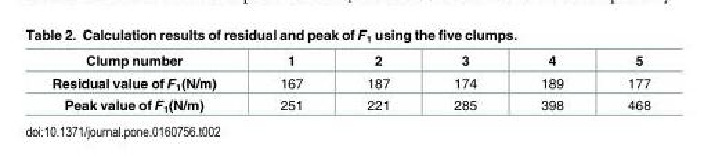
<table><thead><tr><td>Clump number</td><td>1</td><td>2</td><td>3</td><td>4</td><td>5</td></tr></thead><tbody><tr><td>Residual value of F<sub>1</sub>(N/m)</td><td>167</td><td>187</td><td>174</td><td>189</td><td>177</td></tr><tr><td>Peak value of F<sub>1</sub>(N/m)</td><td>251</td><td>221</td><td>285</td><td>398</td><td>468</td></tr></tbody></table>